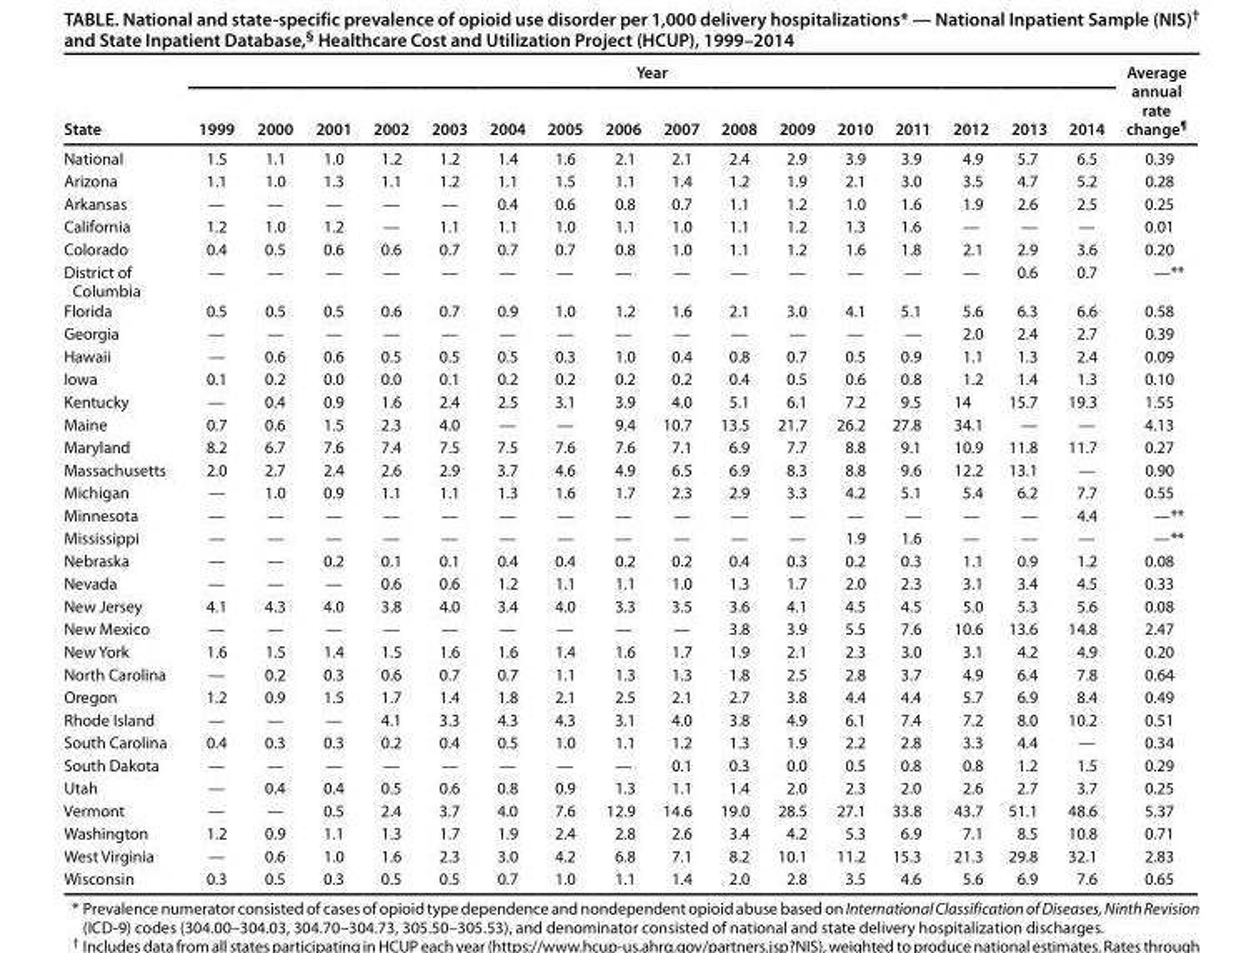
<table><thead><tr><td rowspan="2">State</td><td colspan="16">Year</td><td rowspan="2">Average annual rate change<sup>¶</sup></td></tr><tr><td>1999</td><td>2000</td><td>2001</td><td>2002</td><td>2003</td><td>2004</td><td>2005</td><td>2006</td><td>2007</td><td>2008</td><td>2009</td><td>2010</td><td>2011</td><td>2012</td><td>2013</td><td>2014</td></tr></thead><tbody><tr><td>National</td><td>1.5</td><td>1.1</td><td>1.0</td><td>1.2</td><td>1.2</td><td>1.4</td><td>1.6</td><td>2.1</td><td>2.1</td><td>2.4</td><td>2.9</td><td>3.9</td><td>3.9</td><td>4.9</td><td>5.7</td><td>6.5</td><td>0.39</td></tr><tr><td>Arizona</td><td>1.1</td><td>1.0</td><td>1.3</td><td>1.1</td><td>1.2</td><td>1.1</td><td>1.5</td><td>1.1</td><td>1.4</td><td>1.2</td><td>1.9</td><td>2.1</td><td>3.0</td><td>3.5</td><td>4.7</td><td>5.2</td><td>0.28</td></tr><tr><td>Arkansas</td><td>—</td><td>—</td><td>—</td><td>—</td><td>—</td><td>0.4</td><td>0.6</td><td>0.8</td><td>0.7</td><td>1.1</td><td>1.2</td><td>1.0</td><td>1.6</td><td>1.9</td><td>2.6</td><td>2.5</td><td>0.25</td></tr><tr><td>California</td><td>1.2</td><td>1.0</td><td>1.2</td><td>—</td><td>1.1</td><td>1.1</td><td>1.0</td><td>1.1</td><td>1.0</td><td>1.1</td><td>1.2</td><td>1.3</td><td>1.6</td><td>—</td><td>—</td><td>—</td><td>0.01</td></tr><tr><td>Colorado</td><td>0.4</td><td>0.5</td><td>0.6</td><td>0.6</td><td>0.7</td><td>0.7</td><td>0.7</td><td>0.8</td><td>1.0</td><td>1.1</td><td>1.2</td><td>1.6</td><td>1.8</td><td>2.1</td><td>2.9</td><td>3.6</td><td>0.20</td></tr><tr><td>District of Columbia</td><td>—</td><td>—</td><td>—</td><td>—</td><td>—</td><td>—</td><td>—</td><td>—</td><td>—</td><td>—</td><td>—</td><td>—</td><td>—</td><td>—</td><td>0.6</td><td>0.7</td><td>—**</td></tr><tr><td>Florida</td><td>0.5</td><td>0.5</td><td>0.5</td><td>0.6</td><td>0.7</td><td>0.9</td><td>1.0</td><td>1.2</td><td>1.6</td><td>2.1</td><td>3.0</td><td>4.1</td><td>5.1</td><td>5.6</td><td>6.3</td><td>6.6</td><td>0.58</td></tr><tr><td>Georgia</td><td>—</td><td>—</td><td>—</td><td>—</td><td>—</td><td>—</td><td>—</td><td>—</td><td>—</td><td>—</td><td>—</td><td>—</td><td>—</td><td>2.0</td><td>2.4</td><td>2.7</td><td>0.39</td></tr><tr><td>Hawaii</td><td>—</td><td>0.6</td><td>0.6</td><td>0.5</td><td>0.5</td><td>0.5</td><td>0.3</td><td>1.0</td><td>0.4</td><td>0.8</td><td>0.7</td><td>0.5</td><td>0.9</td><td>1.1</td><td>1.3</td><td>2.4</td><td>0.09</td></tr><tr><td>Iowa</td><td>0.1</td><td>0.2</td><td>0.0</td><td>0.0</td><td>0.1</td><td>0.2</td><td>0.2</td><td>0.2</td><td>0.2</td><td>0.4</td><td>0.5</td><td>0.6</td><td>0.8</td><td>1.2</td><td>1.4</td><td>1.3</td><td>0.10</td></tr><tr><td>Kentucky</td><td>—</td><td>0.4</td><td>0.9</td><td>1.6</td><td>2.4</td><td>2.5</td><td>3.1</td><td>3.9</td><td>4.0</td><td>5.1</td><td>6.1</td><td>7.2</td><td>9.5</td><td>14</td><td>15.7</td><td>19.3</td><td>1.55</td></tr><tr><td>Maine</td><td>0.7</td><td>0.6</td><td>1.5</td><td>2.3</td><td>4.0</td><td>—</td><td>—</td><td>9.4</td><td>10.7</td><td>13.5</td><td>21.7</td><td>26.2</td><td>27.8</td><td>34.1</td><td>—</td><td>—</td><td>4.13</td></tr><tr><td>Maryland</td><td>8.2</td><td>6.7</td><td>7.6</td><td>7.4</td><td>7.5</td><td>7.5</td><td>7.6</td><td>7.6</td><td>7.1</td><td>6.9</td><td>7.7</td><td>8.8</td><td>9.1</td><td>10.9</td><td>11.8</td><td>11.7</td><td>0.27</td></tr><tr><td>Massachusetts</td><td>2.0</td><td>2.7</td><td>2.4</td><td>2.6</td><td>2.9</td><td>3.7</td><td>4.6</td><td>4.9</td><td>6.5</td><td>6.9</td><td>8.3</td><td>8.8</td><td>9.6</td><td>12.2</td><td>13.1</td><td>—</td><td>0.90</td></tr><tr><td>Michigan</td><td>—</td><td>1.0</td><td>0.9</td><td>1.1</td><td>1.1</td><td>1.3</td><td>1.6</td><td>1.7</td><td>2.3</td><td>2.9</td><td>3.3</td><td>4.2</td><td>5.1</td><td>5.4</td><td>6.2</td><td>7.7</td><td>0.55</td></tr><tr><td>Minnesota</td><td>—</td><td>—</td><td>—</td><td>—</td><td>—</td><td>—</td><td>—</td><td>—</td><td>—</td><td>—</td><td>—</td><td>—</td><td>—</td><td>—</td><td>—</td><td>4.4</td><td>—**</td></tr><tr><td>Mississippi</td><td>—</td><td>—</td><td>—</td><td>—</td><td>—</td><td>—</td><td>—</td><td>—</td><td>—</td><td>—</td><td>—</td><td>1.9</td><td>1.6</td><td>—</td><td>—</td><td>—</td><td>—**</td></tr><tr><td>Nebraska</td><td>—</td><td>—</td><td>0.2</td><td>0.1</td><td>0.1</td><td>0.4</td><td>0.4</td><td>0.2</td><td>0.2</td><td>0.4</td><td>0.3</td><td>0.2</td><td>0.3</td><td>1.1</td><td>0.9</td><td>1.2</td><td>0.08</td></tr><tr><td>Nevada</td><td>—</td><td>—</td><td>—</td><td>0.6</td><td>0.6</td><td>1.2</td><td>1.1</td><td>1.1</td><td>1.0</td><td>1.3</td><td>1.7</td><td>2.0</td><td>2.3</td><td>3.1</td><td>3.4</td><td>4.5</td><td>0.33</td></tr><tr><td>New Jersey</td><td>4.1</td><td>4.3</td><td>4.0</td><td>3.8</td><td>4.0</td><td>3.4</td><td>4.0</td><td>3.3</td><td>3.5</td><td>3.6</td><td>4.1</td><td>4.5</td><td>4.5</td><td>5.0</td><td>5.3</td><td>5.6</td><td>0.08</td></tr><tr><td>New Mexico</td><td>—</td><td>—</td><td>—</td><td>—</td><td>—</td><td>—</td><td>—</td><td>—</td><td>—</td><td>3.8</td><td>3.9</td><td>5.5</td><td>7.6</td><td>10.6</td><td>13.6</td><td>14.8</td><td>2.47</td></tr><tr><td>New York</td><td>1.6</td><td>1.5</td><td>1.4</td><td>1.5</td><td>1.6</td><td>1.6</td><td>1.4</td><td>1.6</td><td>1.7</td><td>1.9</td><td>2.1</td><td>2.3</td><td>3.0</td><td>3.1</td><td>4.2</td><td>4.9</td><td>0.20</td></tr><tr><td>North Carolina</td><td>—</td><td>0.2</td><td>0.3</td><td>0.6</td><td>0.7</td><td>0.7</td><td>1.1</td><td>1.3</td><td>1.3</td><td>1.8</td><td>2.5</td><td>2.8</td><td>3.7</td><td>4.9</td><td>6.4</td><td>7.8</td><td>0.64</td></tr><tr><td>Oregon</td><td>1.2</td><td>0.9</td><td>1.5</td><td>1.7</td><td>1.4</td><td>1.8</td><td>2.1</td><td>2.5</td><td>2.1</td><td>2.7</td><td>3.8</td><td>4.4</td><td>4.4</td><td>5.7</td><td>6.9</td><td>8.4</td><td>0.49</td></tr><tr><td>Rhode Island</td><td>—</td><td>—</td><td>—</td><td>4.1</td><td>3.3</td><td>4.3</td><td>4.3</td><td>3.1</td><td>4.0</td><td>3.8</td><td>4.9</td><td>6.1</td><td>7.4</td><td>7.2</td><td>8.0</td><td>10.2</td><td>0.51</td></tr><tr><td>South Carolina</td><td>0.4</td><td>0.3</td><td>0.3</td><td>0.2</td><td>0.4</td><td>0.5</td><td>1.0</td><td>1.1</td><td>1.2</td><td>1.3</td><td>1.9</td><td>2.2</td><td>2.8</td><td>3.3</td><td>4.4</td><td>—</td><td>0.34</td></tr><tr><td>South Dakota</td><td>—</td><td>—</td><td>—</td><td>—</td><td>—</td><td>—</td><td>—</td><td>—</td><td>0.1</td><td>0.3</td><td>0.0</td><td>0.5</td><td>0.8</td><td>0.8</td><td>1.2</td><td>1.5</td><td>0.29</td></tr><tr><td>Utah</td><td>—</td><td>0.4</td><td>0.4</td><td>0.5</td><td>0.6</td><td>0.8</td><td>0.9</td><td>1.3</td><td>1.1</td><td>1.4</td><td>2.0</td><td>2.3</td><td>2.0</td><td>2.6</td><td>2.7</td><td>3.7</td><td>0.25</td></tr><tr><td>Vermont</td><td>—</td><td>—</td><td>0.5</td><td>2.4</td><td>3.7</td><td>4.0</td><td>7.6</td><td>12.9</td><td>14.6</td><td>19.0</td><td>28.5</td><td>27.1</td><td>33.8</td><td>43.7</td><td>51.1</td><td>48.6</td><td>5.37</td></tr><tr><td>Washington</td><td>1.2</td><td>0.9</td><td>1.1</td><td>1.3</td><td>1.7</td><td>1.9</td><td>2.4</td><td>2.8</td><td>2.6</td><td>3.4</td><td>4.2</td><td>5.3</td><td>6.9</td><td>7.1</td><td>8.5</td><td>10.8</td><td>0.71</td></tr><tr><td>West Virginia</td><td>—</td><td>0.6</td><td>1.0</td><td>1.6</td><td>2.3</td><td>3.0</td><td>4.2</td><td>6.8</td><td>7.1</td><td>8.2</td><td>10.1</td><td>11.2</td><td>15.3</td><td>21.3</td><td>29.8</td><td>32.1</td><td>2.83</td></tr><tr><td>Wisconsin</td><td>0.3</td><td>0.5</td><td>0.3</td><td>0.5</td><td>0.5</td><td>0.7</td><td>1.0</td><td>1.1</td><td>1.4</td><td>2.0</td><td>2.8</td><td>3.5</td><td>4.6</td><td>5.6</td><td>6.9</td><td>7.6</td><td>0.65</td></tr></tbody></table>